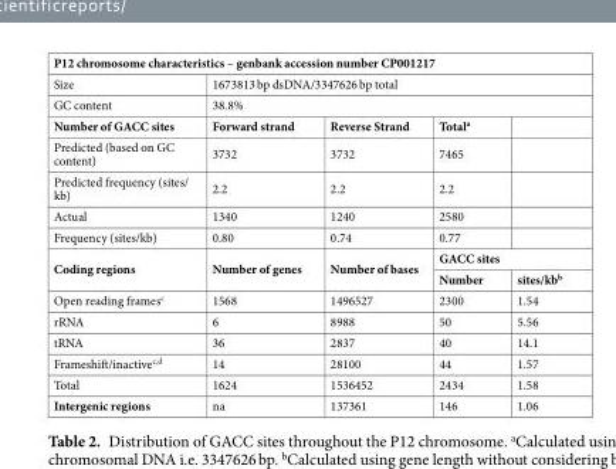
<table><tbody><tr><td colspan="5">P12 chromosome characteristics – genbank accession number CP001217</td></tr><tr><td>Size</td><td colspan="4">1673813 bp dsDNA/3347626 bp total</td></tr><tr><td>GC content</td><td colspan="4">38.8%</td></tr><tr><td>Number of GACC sites</td><td>Forward strand</td><td>Reverse Strand</td><td>Total<sup>a</sup></td><td></td></tr><tr><td>Predicted (based on GC content)</td><td>3732</td><td>3732</td><td>7465</td><td></td></tr><tr><td>Predicted frequency (sites/ kb)</td><td>2.2</td><td>2.2</td><td>2.2</td><td></td></tr><tr><td>Actual</td><td>1340</td><td>1240</td><td>2580</td><td></td></tr><tr><td>Frequency (sites/kb)</td><td>0.80</td><td>0.74</td><td>0.77</td><td></td></tr><tr><td rowspan="2">Coding regions</td><td rowspan="2">Number of genes</td><td rowspan="2">Number of bases</td><td colspan="2">GACC sites</td></tr><tr><td>Number</td><td>sites/kb<sup>b</sup></td></tr><tr><td>Open reading frames<sup>c</sup></td><td>1568</td><td>1496527</td><td>2300</td><td>1.54</td></tr><tr><td>rRNA</td><td>6</td><td>8988</td><td>50</td><td>5.56</td></tr><tr><td>tRNA</td><td>36</td><td>2837</td><td>40</td><td>14.1</td></tr><tr><td>Frameshift/inactive<sup>c,d</sup></td><td>14</td><td>28100</td><td>44</td><td>1.57</td></tr><tr><td>Total</td><td>1624</td><td>1536452</td><td>2434</td><td>1.58</td></tr><tr><td>Intergenic regions</td><td>na</td><td>137361</td><td>146</td><td>1.06</td></tr></tbody></table>